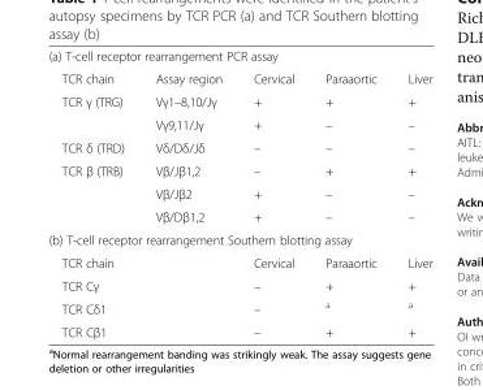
<table><tbody><tr><td colspan="5">(a) T-cell receptor rearrangement PCR assay</td></tr><tr><td>TCR chain</td><td>Assay region</td><td>Cervical</td><td>Paraaortic</td><td>Liver</td></tr><tr><td rowspan="2">TCR γ (TRG)</td><td>Vγ1–8,10/Jγ</td><td>+</td><td>+</td><td>+</td></tr><tr><td>Vγ9,11/Jγ</td><td>+</td><td>–</td><td>–</td></tr><tr><td>TCR δ (TRD)</td><td>Vδ/Dδ/Jδ</td><td>–</td><td>–</td><td>–</td></tr><tr><td rowspan="3">TCR β (TRB)</td><td>Vβ/Jβ1,2</td><td>–</td><td>+</td><td>+</td></tr><tr><td>Vβ/Jβ2</td><td>+</td><td>–</td><td>–</td></tr><tr><td>Vβ/Dβ1,2</td><td>+</td><td>–</td><td>–</td></tr><tr><td colspan="5">(b) T-cell receptor rearrangement Southern blotting assay</td></tr><tr><td>TCR chain</td><td></td><td>Cervical</td><td>Paraaortic</td><td>Liver</td></tr><tr><td>TCR Cγ</td><td></td><td>–</td><td>+</td><td>+</td></tr><tr><td>TCR Cδ1</td><td></td><td>–</td><td><sup>a</sup></td><td><sup>a</sup></td></tr><tr><td>TCR Cβ1</td><td></td><td>–</td><td>+</td><td>+</td></tr></tbody></table>